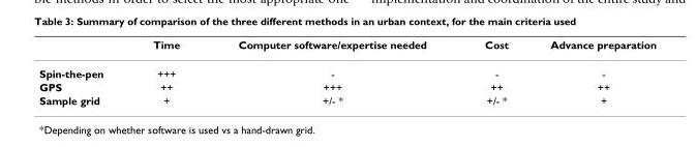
<table><thead><tr><td></td><td>Time</td><td>Computer software/expertise needed</td><td>Cost</td><td>Advance preparation</td></tr></thead><tbody><tr><td>Spin-the-pen</td><td>+++</td><td>-</td><td>-</td><td>-</td></tr><tr><td>GPS</td><td>++</td><td>+++</td><td>++</td><td>++</td></tr><tr><td>Sample grid</td><td>+</td><td>+/- *</td><td>+/- *</td><td>+</td></tr></tbody></table>